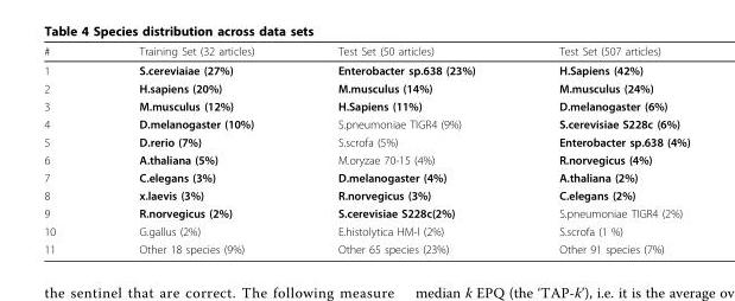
<table><thead><tr><td>#</td><td>Training Set (32 articles)</td><td>Test Set (50 articles)</td><td>Test Set (507 articles)</td></tr></thead><tbody><tr><td>1</td><td>S.cereviaiae (27%)</td><td>Enterobacter sp.638 (23%)</td><td>H.Sapiens (42%)</td></tr><tr><td>2</td><td>H.sapiens (20%)</td><td>M.musculus (14%)</td><td>M.musculus (24%)</td></tr><tr><td>3</td><td>M.musculus (12%)</td><td>H.Sapiens (11%)</td><td>D.melanogaster (6%)</td></tr><tr><td>4</td><td>D.melanogaster (10%)</td><td>S.pneumoniae TIGR4 (9%)</td><td>S.cerevisiae S228c (6%)</td></tr><tr><td>5</td><td>D.rerio (7%)</td><td>S.scrofa (5%)</td><td>Enterobacter sp.638 (4%)</td></tr><tr><td>6</td><td>A.thaliana (5%)</td><td>M.oryzae 70-15 (4%)</td><td>R.norvegicus (4%)</td></tr><tr><td>7</td><td>C.elegans (3%)</td><td>D.melanogaster (4%)</td><td>A.thaliana (2%)</td></tr><tr><td>8</td><td>x.laevis (3%)</td><td>R.norvegicus (3%)</td><td>C.elegans (2%)</td></tr><tr><td>9</td><td>R.norvegicus (2%)</td><td>S.cerevisiae S228c(2%)</td><td>S.pneumoniae TIGR4 (2%)</td></tr><tr><td>10</td><td>G.gallus (2%)</td><td>E.histolytica HM-l (2%)</td><td>S.scrofa (1 %)</td></tr><tr><td>11</td><td>Other 18 species (9%)</td><td>Other 65 species (23%)</td><td>Other 91 species (7%)</td></tr></tbody></table>